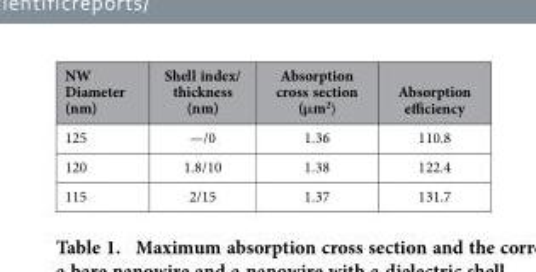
<table><thead><tr><td>NW Diameter (nm)</td><td>Shell index/ thickness (nm)</td><td>Absorption cross section (μm<sup>2</sup>)</td><td>Absorption efficiency</td></tr></thead><tbody><tr><td>125</td><td>—/0</td><td>1.36</td><td>110.8</td></tr><tr><td>120</td><td>1.8/10</td><td>1.38</td><td>122.4</td></tr><tr><td>115</td><td>2/15</td><td>1.37</td><td>131.7</td></tr></tbody></table>